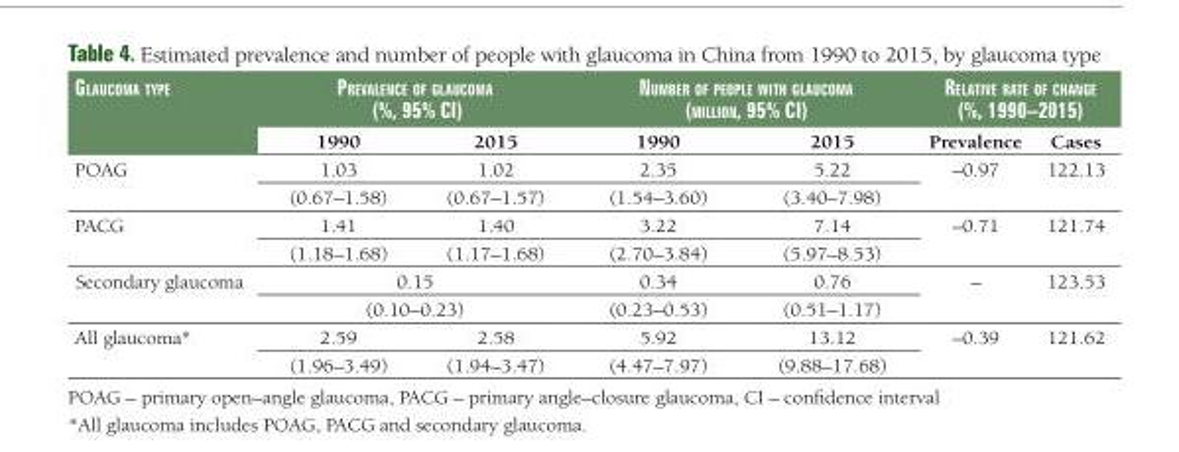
<table><thead><tr><td rowspan="2">glaucoma type</td><td colspan="2">pRevalence of glaucoma (%, 95% ci)</td><td colspan="2">numbeR of people with glaucoma (million, 95% ci)</td><td colspan="2">Relative Rate of change (%, 1990–2015)</td></tr><tr><td>1990</td><td>2015</td><td>1990</td><td>2015</td><td>Prevalence</td><td>Cases</td></tr></thead><tbody><tr><td rowspan="2">POAG</td><td>1.03</td><td>1.02</td><td>2.35</td><td>5.22</td><td rowspan="2">–0.97</td><td rowspan="2">122.13</td></tr><tr><td>(0.67–1.58)</td><td>(0.67–1.57)</td><td>(1.54–3.60)</td><td>(3.40–7.98)</td></tr><tr><td rowspan="2">PACG</td><td>1.41</td><td>1.40</td><td>3.22</td><td>7.14</td><td rowspan="2">–0.71</td><td rowspan="2">121.74</td></tr><tr><td>(1.18–1.68)</td><td>(1.17–1.68)</td><td>(2.70–3.84)</td><td>(5.97–8.53)</td></tr><tr><td rowspan="2">Secondary glaucoma</td><td colspan="2">0.15</td><td>0.34</td><td>0.76</td><td rowspan="2">–</td><td rowspan="2">123.53</td></tr><tr><td colspan="2">(0.10–0.23)</td><td>(0.23–0.53)</td><td>(0.51–1.17)</td></tr><tr><td rowspan="2">All glaucoma*</td><td>2.59</td><td>2.58</td><td>5.92</td><td>13.12</td><td rowspan="2">–0.39</td><td rowspan="2">121.62</td></tr><tr><td>(1.96–3.49)</td><td>(1.94–3.47)</td><td>(4.47–7.97)</td><td>(9.88–17.68)</td></tr></tbody></table>